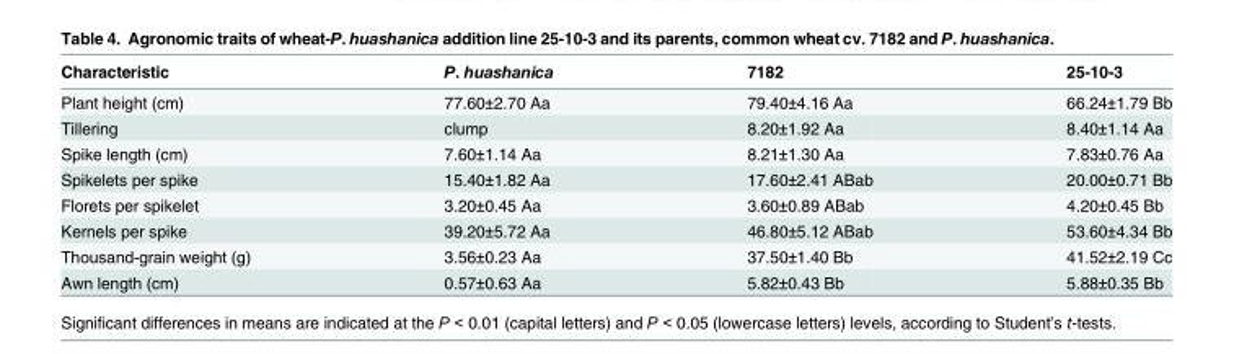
<table><thead><tr><td>Characteristic</td><td>P. huashanica</td><td>7182</td><td>25-10-3</td></tr></thead><tbody><tr><td>Plant height (cm)</td><td>77.60±2.70 Aa</td><td>79.40±4.16 Aa</td><td>66.24±1.79 Bb</td></tr><tr><td>Tillering</td><td>clump</td><td>8.20±1.92 Aa</td><td>8.40±1.14 Aa</td></tr><tr><td>Spike length (cm)</td><td>7.60±1.14 Aa</td><td>8.21±1.30 Aa</td><td>7.83±0.76 Aa</td></tr><tr><td>Spikelets per spike</td><td>15.40±1.82 Aa</td><td>17.60±2.41 ABab</td><td>20.00±0.71 Bb</td></tr><tr><td>Florets per spikelet</td><td>3.20±0.45 Aa</td><td>3.60±0.89 ABab</td><td>4.20±0.45 Bb</td></tr><tr><td>Kernels per spike</td><td>39.20±5.72 Aa</td><td>46.80±5.12 ABab</td><td>53.60±4.34 Bb</td></tr><tr><td>Thousand-grain weight (g)</td><td>3.56±0.23 Aa</td><td>37.50±1.40 Bb</td><td>41.52±2.19 Cc</td></tr><tr><td>Awn length (cm)</td><td>0.57±0.63 Aa</td><td>5.82±0.43 Bb</td><td>5.88±0.35 Bb</td></tr></tbody></table>